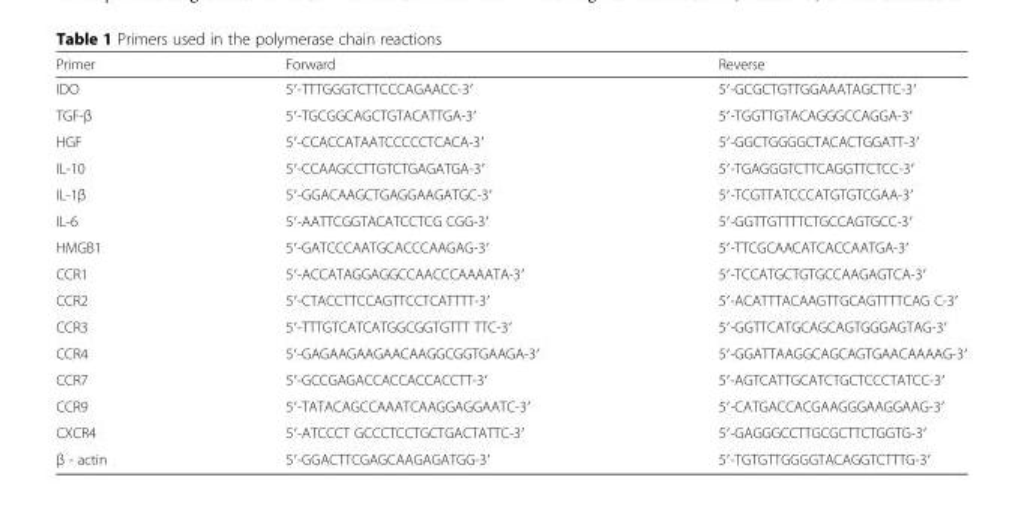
<table><thead><tr><td>Primer</td><td>Forward</td><td>Reverse</td></tr></thead><tbody><tr><td>IDO</td><td>5′-TTTGGGTCTTCCCAGAACC-3′</td><td>5′-GCGCTGTTGGAAATAGCTTC-3′</td></tr><tr><td>TGF-β</td><td>5′-TGCGGCAGCTGTACATTGA-3′</td><td>5′-TGGTTGTACAGGGCCAGGA-3′</td></tr><tr><td>HGF</td><td>5′-CCACCATAATCCCCCTCACA-3′</td><td>5′-GGCTGGGGCTACACTGGATT-3′</td></tr><tr><td>IL-10</td><td>5′-CCAAGCCTTGTCTGAGATGA-3′</td><td>5′-TGAGGGTCTTCAGGTTCTCC-3′</td></tr><tr><td>IL-1β</td><td>5′-GGACAAGCTGAGGAAGATGC-3′</td><td>5′-TCGTTATCCCATGTGTCGAA-3′</td></tr><tr><td>IL-6</td><td>5′-AATTCGGTACATCCTCG CGG-3′</td><td>5′-GGTTGTTTTCTGCCAGTGCC-3′</td></tr><tr><td>HMGB1</td><td>5′-GATCCCAATGCACCCAAGAG-3′</td><td>5′-TTCGCAACATCACCAATGA-3′</td></tr><tr><td>CCR1</td><td>5′-ACCATAGGAGGCCAACCCAAAATA-3′</td><td>5′-TCCATGCTGTGCCAAGAGTCA-3′</td></tr><tr><td>CCR2</td><td>5′-CTACCTTCCAGTTCCTCATTTT-3′</td><td>5′-ACATTTACAAGTTGCAGTTTTCAG C-3′</td></tr><tr><td>CCR3</td><td>5′-TTTGTCATCATGGCGGTGTTT TTC-3′</td><td>5′-GGTTCATGCAGCAGTGGGAGTAG-3′</td></tr><tr><td>CCR4</td><td>5′-GAGAAGAAGAACAAGGCGGTGAAGA-3′</td><td>5′-GGATTAAGGCAGCAGTGAACAAAAG-3′</td></tr><tr><td>CCR7</td><td>5′-GCCGAGACCACCACCACCTT-3′</td><td>5′-AGTCATTGCATCTGCTCCCTATCC-3′</td></tr><tr><td>CCR9</td><td>5′-TATACAGCCAAATCAAGGAGGAATC-3′</td><td>5′-CATGACCACGAAGGGAAGGAAG-3′</td></tr><tr><td>CXCR4</td><td>5′-ATCCCT GCCCTCCTGCTGACTATTC-3′</td><td>5′-GAGGGCCTTGCGCTTCTGGTG-3′</td></tr><tr><td>β - actin</td><td>5′-GGACTTCGAGCAAGAGATGG-3′</td><td>5′-TGTGTTGGGGTACAGGTCTTTG-3′</td></tr></tbody></table>